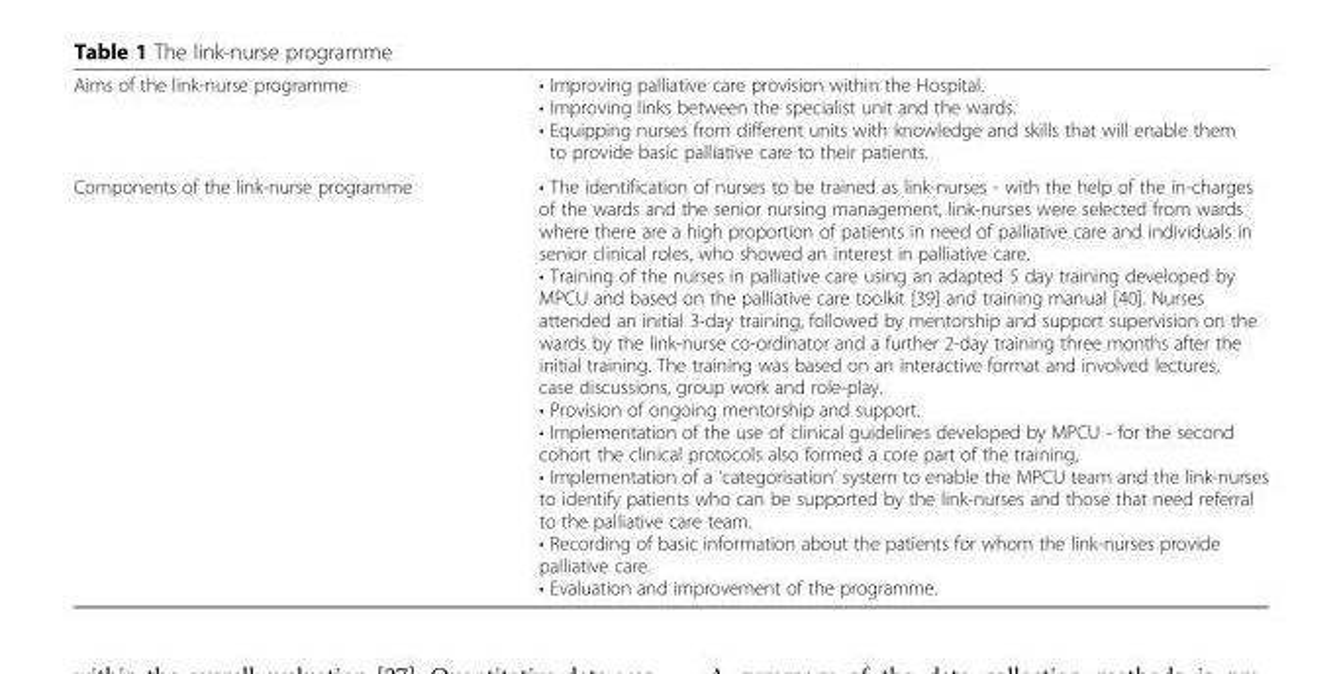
<table><tbody><tr><td>Aims of the link-nurse programme</td><td>• Improving palliative care provision within the Hospital. • Improving links between the specialist unit and the wards. • Equipping nurses from different units with knowledge and skills that will enable them to provide basic palliative care to their patients.</td></tr><tr><td>Components of the link-nurse programme</td><td>• The identification of nurses to be trained as link-nurses - with the help of the in-charges of the wards and the senior nursing management, link-nurses were selected from wards where there are a high proportion of patients in need of palliative care and individuals in senior clinical roles, who showed an interest in palliative care. • Training of the nurses in palliative care using an adapted 5 day training developed by MPCU and based on the palliative care toolkit [39] and training manual [40]. Nurses attended an initial 3-day training, followed by mentorship and support supervision on the wards by the link-nurse co-ordinator and a further 2-day training three months after the initial training. The training was based on an interactive format and involved lectures, case discussions, group work and role-play. • Provision of ongoing mentorship and support. • Implementation of the use of clinical guidelines developed by MPCU - for the second cohort the clinical protocols also formed a core part of the training, • Implementation of a ‘categorisation’ system to enable the MPCU team and the link-nurses to identify patients who can be supported by the link-nurses and those that need referral to the palliative care team. • Recording of basic information about the patients for whom the link-nurses provide palliative care. • Evaluation and improvement of the programme.</td></tr></tbody></table>